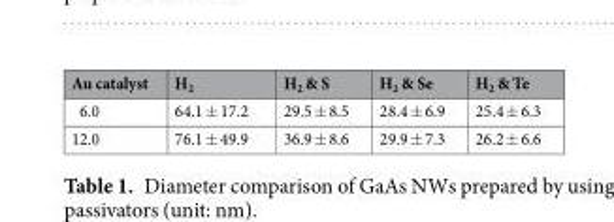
<table><thead><tr><td>Au catalyst</td><td>H<sub>2</sub></td><td>H<sub>2</sub> &amp; S</td><td>H<sub>2</sub> &amp; Se</td><td>H<sub>2</sub> &amp; Te</td></tr></thead><tbody><tr><td>6.0</td><td>64.1 ± 17.2</td><td>29.5 ± 8.5</td><td>28.4 ± 6.9</td><td>25.4 ± 6.3</td></tr><tr><td>12.0</td><td>76.1 ± 49.9</td><td>36.9 ± 8.6</td><td>29.9 ± 7.3</td><td>26.2 ± 6.6</td></tr></tbody></table>